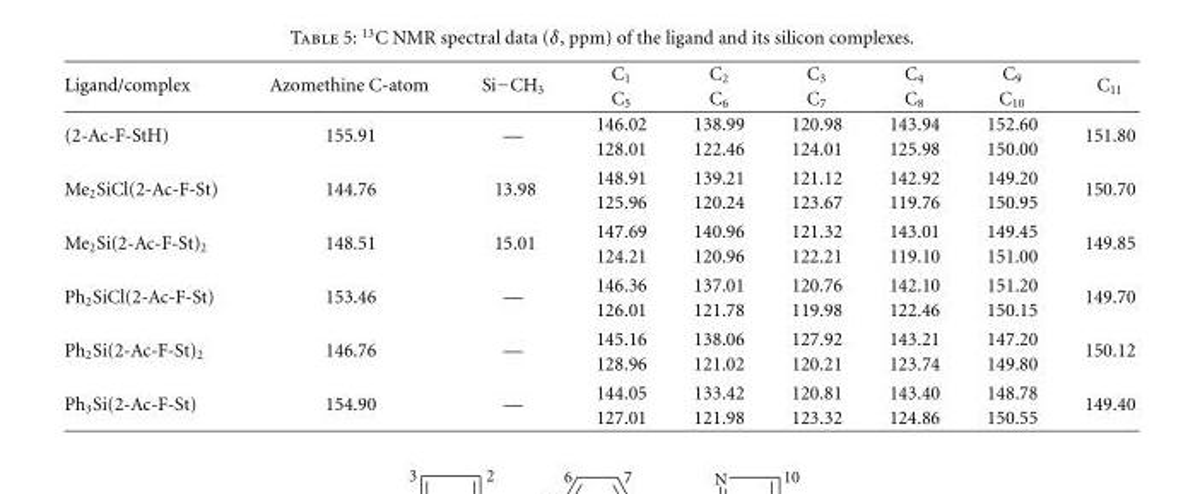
<table><tbody><tr><td rowspan="2">Ligand/complex</td><td rowspan="2">Azomethine C-atom</td><td rowspan="2">Si−CH<sub>3</sub></td><td>C<sub>1</sub></td><td>C<sub>2</sub></td><td>C<sub>3</sub></td><td>C<sub>4</sub></td><td>C<sub>9</sub></td><td rowspan="2">C<sub>11</sub></td></tr><tr><td>C<sub>5</sub></td><td>C<sub>6</sub></td><td>C<sub>7</sub></td><td>C<sub>8</sub></td><td>C<sub>10</sub></td></tr><tr><td rowspan="2">(2-Ac-F-StH)</td><td rowspan="2">155.91</td><td rowspan="2">—</td><td>146.02</td><td>138.99</td><td>120.98</td><td>143.94</td><td>152.60</td><td rowspan="2">151.80</td></tr><tr><td>128.01</td><td>122.46</td><td>124.01</td><td>125.98</td><td>150.00</td></tr><tr><td rowspan="2">Me<sub>2</sub>SiCl(2-Ac-F-St)</td><td rowspan="2">144.76</td><td rowspan="2">13.98</td><td>148.91</td><td>139.21</td><td>121.12</td><td>142.92</td><td>149.20</td><td rowspan="2">150.70</td></tr><tr><td>125.96</td><td>120.24</td><td>123.67</td><td>119.76</td><td>150.95</td></tr><tr><td rowspan="2">Me<sub>2</sub>Si(2-Ac-F-St)<sub>2</sub></td><td rowspan="2">148.51</td><td rowspan="2">15.01</td><td>147.69</td><td>140.96</td><td>121.32</td><td>143.01</td><td>149.45</td><td rowspan="2">149.85</td></tr><tr><td>124.21</td><td>120.96</td><td>122.21</td><td>119.10</td><td>151.00</td></tr><tr><td rowspan="2">Ph<sub>2</sub>SiCl(2-Ac-F-St)</td><td rowspan="2">153.46</td><td rowspan="2">—</td><td>146.36</td><td>137.01</td><td>120.76</td><td>142.10</td><td>151.20</td><td rowspan="2">149.70</td></tr><tr><td>126.01</td><td>121.78</td><td>119.98</td><td>122.46</td><td>150.15</td></tr><tr><td rowspan="2">Ph<sub>2</sub>Si(2-Ac-F-St)<sub>2</sub></td><td rowspan="2">146.76</td><td rowspan="2">—</td><td>145.16</td><td>138.06</td><td>127.92</td><td>143.21</td><td>147.20</td><td rowspan="2">150.12</td></tr><tr><td>128.96</td><td>121.02</td><td>120.21</td><td>123.74</td><td>149.80</td></tr><tr><td rowspan="2">Ph<sub>3</sub>Si(2-Ac-F-St)</td><td rowspan="2">154.90</td><td rowspan="2">—</td><td>144.05</td><td>133.42</td><td>120.81</td><td>143.40</td><td>148.78</td><td rowspan="2">149.40</td></tr><tr><td>127.01</td><td>121.98</td><td>123.32</td><td>124.86</td><td>150.55</td></tr></tbody></table>